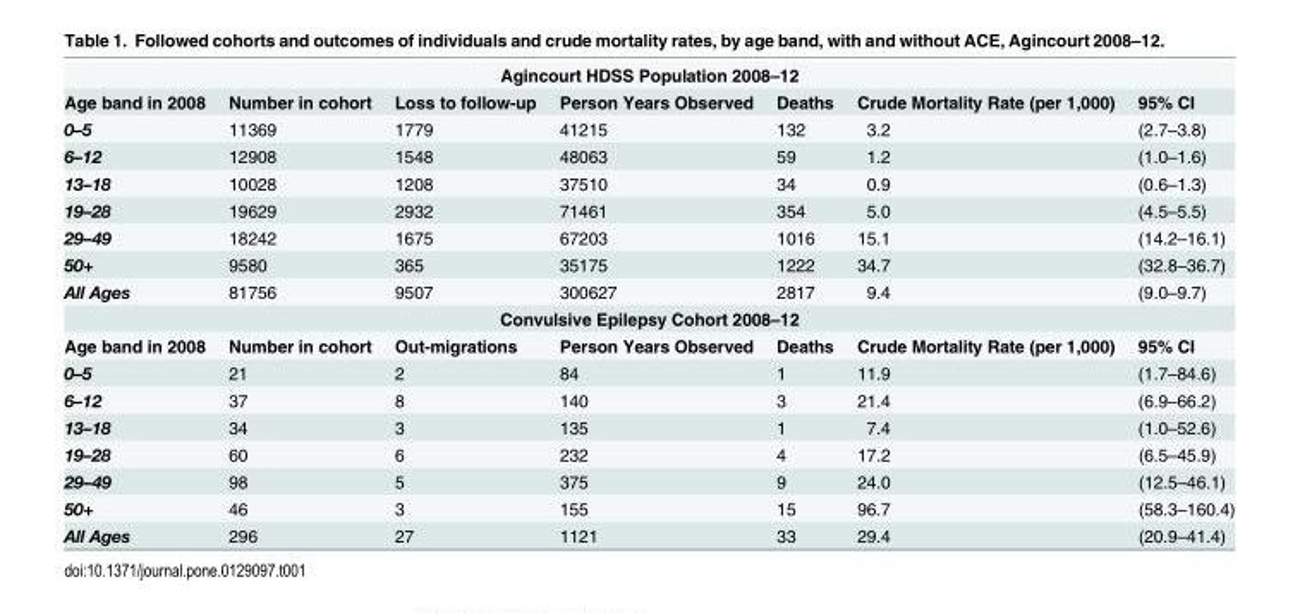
<table><tbody><tr><td colspan="7">Agincourt HDSS Population 2008–12</td></tr><tr><td>Age band in 2008</td><td>Number in cohort</td><td>Loss to follow-up</td><td>Person Years Observed</td><td>Deaths</td><td>Crude Mortality Rate (per 1,000)</td><td>95% CI</td></tr><tr><td>0–5</td><td>11369</td><td>1779</td><td>41215</td><td>132</td><td>3.2</td><td>(2.7–3.8)</td></tr><tr><td>6–12</td><td>12908</td><td>1548</td><td>48063</td><td>59</td><td>1.2</td><td>(1.0–1.6)</td></tr><tr><td>13–18</td><td>10028</td><td>1208</td><td>37510</td><td>34</td><td>0.9</td><td>(0.6–1.3)</td></tr><tr><td>19–28</td><td>19629</td><td>2932</td><td>71461</td><td>354</td><td>5.0</td><td>(4.5–5.5)</td></tr><tr><td>29–49</td><td>18242</td><td>1675</td><td>67203</td><td>1016</td><td>15.1</td><td>(14.2–16.1)</td></tr><tr><td>50+</td><td>9580</td><td>365</td><td>35175</td><td>1222</td><td>34.7</td><td>(32.8–36.7)</td></tr><tr><td>All Ages</td><td>81756</td><td>9507</td><td>300627</td><td>2817</td><td>9.4</td><td>(9.0–9.7)</td></tr><tr><td colspan="7">Convulsive Epilepsy Cohort 2008–12</td></tr><tr><td>Age band in 2008</td><td>Number in cohort</td><td>Out-migrations</td><td>Person Years Observed</td><td>Deaths</td><td>Crude Mortality Rate (per 1,000)</td><td>95% CI</td></tr><tr><td>0–5</td><td>21</td><td>2</td><td>84</td><td>1</td><td>11.9</td><td>(1.7–84.6)</td></tr><tr><td>6–12</td><td>37</td><td>8</td><td>140</td><td>3</td><td>21.4</td><td>(6.9–66.2)</td></tr><tr><td>13–18</td><td>34</td><td>3</td><td>135</td><td>1</td><td>7.4</td><td>(1.0–52.6)</td></tr><tr><td>19–28</td><td>60</td><td>6</td><td>232</td><td>4</td><td>17.2</td><td>(6.5–45.9)</td></tr><tr><td>29–49</td><td>98</td><td>5</td><td>375</td><td>9</td><td>24.0</td><td>(12.5–46.1)</td></tr><tr><td>50+</td><td>46</td><td>3</td><td>155</td><td>15</td><td>96.7</td><td>(58.3–160.4)</td></tr><tr><td>All Ages</td><td>296</td><td>27</td><td>1121</td><td>33</td><td>29.4</td><td>(20.9–41.4)</td></tr></tbody></table>